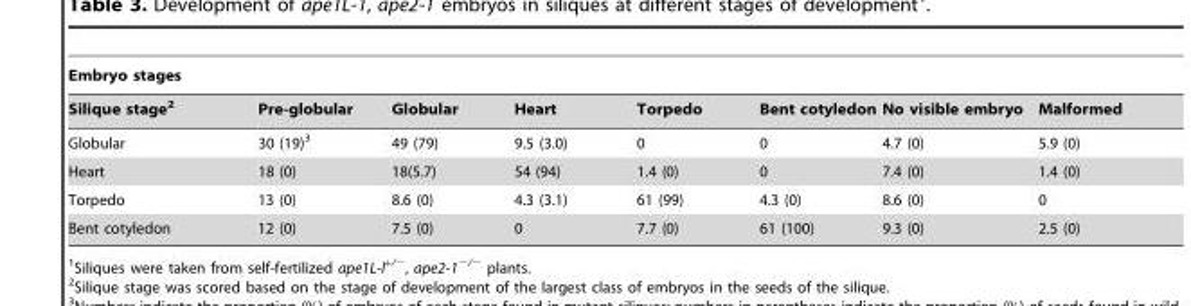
<table><thead><tr><td colspan="8">Embryo stages</td></tr><tr><td>Silique stage<sup>2</sup></td><td>Pre-globular</td><td>Globular</td><td>Heart</td><td>Torpedo</td><td>Bent cotyledon</td><td>No visible embryo</td><td>Malformed</td></tr></thead><tbody><tr><td>Globular</td><td>30 (19)<sup>3</sup></td><td>49 (79)</td><td>9.5 (3.0)</td><td>0</td><td>0</td><td>4.7 (0)</td><td>5.9 (0)</td></tr><tr><td>Heart</td><td>18 (0)</td><td>18(5.7)</td><td>54 (94)</td><td>1.4 (0)</td><td>0</td><td>7.4 (0)</td><td>1.4 (0)</td></tr><tr><td>Torpedo</td><td>13 (0)</td><td>8.6 (0)</td><td>4.3 (3.1)</td><td>61 (99)</td><td>4.3 (0)</td><td>8.6 (0)</td><td>0</td></tr><tr><td>Bent cotyledon</td><td>12 (0)</td><td>7.5 (0)</td><td>0</td><td>7.7 (0)</td><td>61 (100)</td><td>9.3 (0)</td><td>2.5 (0)</td></tr></tbody></table>